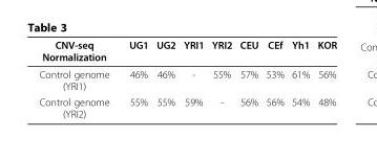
<table><thead><tr><td>CNV-seq Normalization</td><td>UG1</td><td>UG2</td><td>YRI1</td><td>YRI2</td><td>CEU</td><td>CEf</td><td>Yh1</td><td>KOR</td></tr></thead><tbody><tr><td>Control genome (YRI1)</td><td>46%</td><td>46%</td><td>-</td><td>55%</td><td>57%</td><td>53%</td><td>61%</td><td>56%</td></tr><tr><td>Control genome (YRI2)</td><td>55%</td><td>55%</td><td>59%</td><td>-</td><td>56%</td><td>56%</td><td>54%</td><td>48%</td></tr></tbody></table>